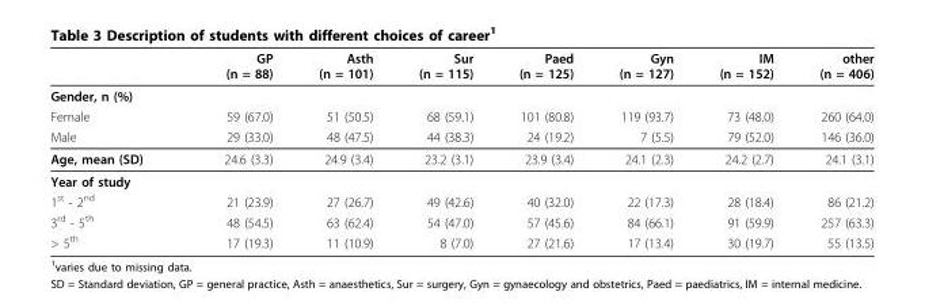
<table><thead><tr><td></td><td>GP (n = 88)</td><td>Asth (n = 101)</td><td>Sur (n = 115)</td><td>Paed (n = 125)</td><td>Gyn (n = 127)</td><td>IM (n = 152)</td><td>other (n = 406)</td></tr></thead><tbody><tr><td colspan="8">Gender, n (%)</td></tr><tr><td>Female</td><td>59 (67.0)</td><td>51 (50.5)</td><td>68 (59.1)</td><td>101 (80.8)</td><td>119 (93.7)</td><td>73 (48.0)</td><td>260 (64.0)</td></tr><tr><td>Male</td><td>29 (33.0)</td><td>48 (47.5)</td><td>44 (38.3)</td><td>24 (19.2)</td><td>7 (5.5)</td><td>79 (52.0)</td><td>146 (36.0)</td></tr><tr><td>Age, mean (SD)</td><td>24.6 (3.3)</td><td>24.9 (3.4)</td><td>23.2 (3.1)</td><td>23.9 (3.4)</td><td>24.1 (2.3)</td><td>24.2 (2.7)</td><td>24.1 (3.1)</td></tr><tr><td colspan="8">Year of study</td></tr><tr><td>1<sup>st</sup> - 2<sup>nd</sup></td><td>21 (23.9)</td><td>27 (26.7)</td><td>49 (42.6)</td><td>40 (32.0)</td><td>22 (17.3)</td><td>28 (18.4)</td><td>86 (21.2)</td></tr><tr><td>3<sup>rd</sup> - 5<sup>th</sup></td><td>48 (54.5)</td><td>63 (62.4)</td><td>54 (47.0)</td><td>57 (45.6)</td><td>84 (66.1)</td><td>91 (59.9)</td><td>257 (63.3)</td></tr><tr><td>&gt; 5<sup>th</sup></td><td>17 (19.3)</td><td>11 (10.9)</td><td>8 (7.0)</td><td>27 (21.6)</td><td>17 (13.4)</td><td>30 (19.7)</td><td>55 (13.5)</td></tr></tbody></table>